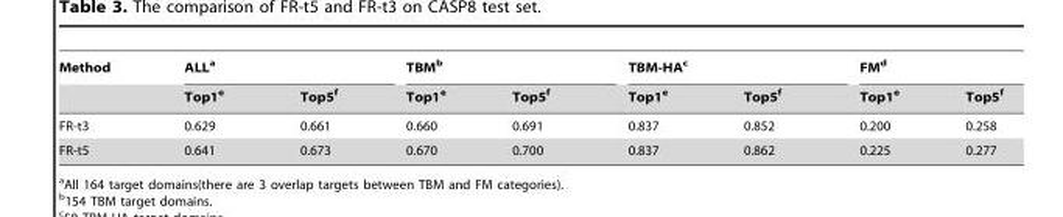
<table><thead><tr><td rowspan="2">Method</td><td colspan="2">ALL<sup>a</sup></td><td colspan="2">TBM<sup>b</sup></td><td colspan="2">TBM-HA<sup>c</sup></td><td colspan="2">FM<sup>d</sup></td></tr><tr><td>Top1<sup>e</sup></td><td>Top5<sup>f</sup></td><td>Top1<sup>e</sup></td><td>Top5<sup>f</sup></td><td>Top1<sup>e</sup></td><td>Top5<sup>f</sup></td><td>Top1<sup>e</sup></td><td>Top5<sup>f</sup></td></tr></thead><tbody><tr><td>FR-t3</td><td>0.629</td><td>0.661</td><td>0.660</td><td>0.691</td><td>0.837</td><td>0.852</td><td>0.200</td><td>0.258</td></tr><tr><td>FR-t5</td><td>0.641</td><td>0.673</td><td>0.670</td><td>0.700</td><td>0.837</td><td>0.862</td><td>0.225</td><td>0.277</td></tr></tbody></table>